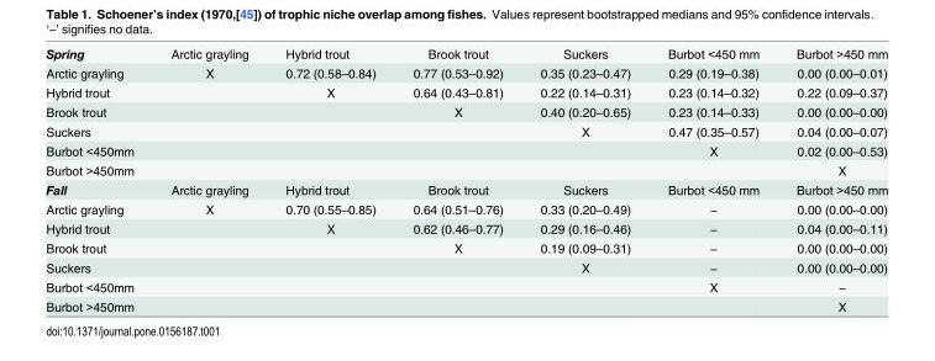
<table><tbody><tr><td>Spring</td><td>Arctic grayling</td><td>Hybrid trout</td><td>Brook trout</td><td>Suckers</td><td>Burbot &lt;450 mm</td><td>Burbot &gt;450 mm</td></tr><tr><td>Arctic grayling</td><td>X</td><td>0.72 (0.58–0.84)</td><td>0.77 (0.53–0.92)</td><td>0.35 (0.23–0.47)</td><td>0.29 (0.19–0.38)</td><td>0.00 (0.00–0.01)</td></tr><tr><td>Hybrid trout</td><td></td><td>X</td><td>0.64 (0.43–0.81)</td><td>0.22 (0.14–0.31)</td><td>0.23 (0.14–0.32)</td><td>0.22 (0.09–0.37)</td></tr><tr><td>Brook trout</td><td></td><td></td><td>X</td><td>0.40 (0.20–0.65)</td><td>0.23 (0.14–0.33)</td><td>0.00 (0.00–0.00)</td></tr><tr><td>Suckers</td><td></td><td></td><td></td><td>X</td><td>0.47 (0.35–0.57)</td><td>0.04 (0.00–0.07)</td></tr><tr><td>Burbot &lt;450mm</td><td></td><td></td><td></td><td></td><td>X</td><td>0.02 (0.00–0.53)</td></tr><tr><td>Burbot &gt;450mm</td><td></td><td></td><td></td><td></td><td></td><td>X</td></tr><tr><td>Fall</td><td>Arctic grayling</td><td>Hybrid trout</td><td>Brook trout</td><td>Suckers</td><td>Burbot &lt;450 mm</td><td>Burbot &gt;450 mm</td></tr><tr><td>Arctic grayling</td><td>X</td><td>0.70 (0.55–0.85)</td><td>0.64 (0.51–0.76)</td><td>0.33 (0.20–0.49)</td><td>−</td><td>0.00 (0.00–0.00)</td></tr><tr><td>Hybrid trout</td><td></td><td>X</td><td>0.62 (0.46–0.77)</td><td>0.29 (0.16–0.46)</td><td>−</td><td>0.04 (0.00–0.11)</td></tr><tr><td>Brook trout</td><td></td><td></td><td>X</td><td>0.19 (0.09–0.31)</td><td>−</td><td>0.00 (0.00–0.00)</td></tr><tr><td>Suckers</td><td></td><td></td><td></td><td>X</td><td>−</td><td>0.00 (0.00–0.00)</td></tr><tr><td>Burbot &lt;450mm</td><td></td><td></td><td></td><td></td><td>X</td><td>−</td></tr><tr><td>Burbot &gt;450mm</td><td></td><td></td><td></td><td></td><td></td><td>X</td></tr></tbody></table>